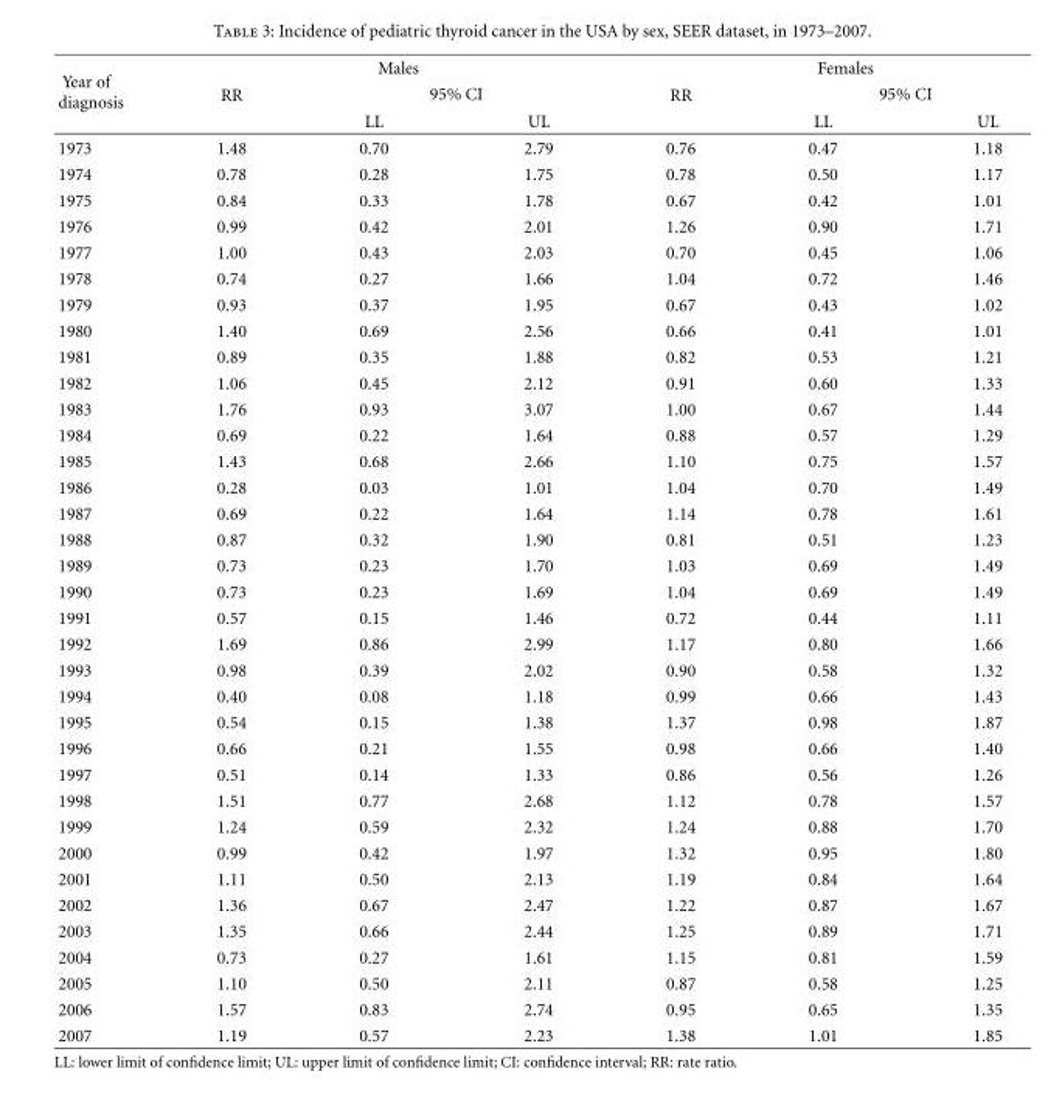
<table><thead><tr><td rowspan="3">Year of diagnosis</td><td colspan="3">Males</td><td colspan="3">Females</td></tr><tr><td rowspan="2">RR</td><td colspan="2">95% CI</td><td rowspan="2">RR</td><td colspan="2">95% CI</td></tr><tr><td>LL</td><td>UL</td><td>LL</td><td>UL</td></tr></thead><tbody><tr><td>1973</td><td>1.48</td><td>0.70</td><td>2.79</td><td>0.76</td><td>0.47</td><td>1.18</td></tr><tr><td>1974</td><td>0.78</td><td>0.28</td><td>1.75</td><td>0.78</td><td>0.50</td><td>1.17</td></tr><tr><td>1975</td><td>0.84</td><td>0.33</td><td>1.78</td><td>0.67</td><td>0.42</td><td>1.01</td></tr><tr><td>1976</td><td>0.99</td><td>0.42</td><td>2.01</td><td>1.26</td><td>0.90</td><td>1.71</td></tr><tr><td>1977</td><td>1.00</td><td>0.43</td><td>2.03</td><td>0.70</td><td>0.45</td><td>1.06</td></tr><tr><td>1978</td><td>0.74</td><td>0.27</td><td>1.66</td><td>1.04</td><td>0.72</td><td>1.46</td></tr><tr><td>1979</td><td>0.93</td><td>0.37</td><td>1.95</td><td>0.67</td><td>0.43</td><td>1.02</td></tr><tr><td>1980</td><td>1.40</td><td>0.69</td><td>2.56</td><td>0.66</td><td>0.41</td><td>1.01</td></tr><tr><td>1981</td><td>0.89</td><td>0.35</td><td>1.88</td><td>0.82</td><td>0.53</td><td>1.21</td></tr><tr><td>1982</td><td>1.06</td><td>0.45</td><td>2.12</td><td>0.91</td><td>0.60</td><td>1.33</td></tr><tr><td>1983</td><td>1.76</td><td>0.93</td><td>3.07</td><td>1.00</td><td>0.67</td><td>1.44</td></tr><tr><td>1984</td><td>0.69</td><td>0.22</td><td>1.64</td><td>0.88</td><td>0.57</td><td>1.29</td></tr><tr><td>1985</td><td>1.43</td><td>0.68</td><td>2.66</td><td>1.10</td><td>0.75</td><td>1.57</td></tr><tr><td>1986</td><td>0.28</td><td>0.03</td><td>1.01</td><td>1.04</td><td>0.70</td><td>1.49</td></tr><tr><td>1987</td><td>0.69</td><td>0.22</td><td>1.64</td><td>1.14</td><td>0.78</td><td>1.61</td></tr><tr><td>1988</td><td>0.87</td><td>0.32</td><td>1.90</td><td>0.81</td><td>0.51</td><td>1.23</td></tr><tr><td>1989</td><td>0.73</td><td>0.23</td><td>1.70</td><td>1.03</td><td>0.69</td><td>1.49</td></tr><tr><td>1990</td><td>0.73</td><td>0.23</td><td>1.69</td><td>1.04</td><td>0.69</td><td>1.49</td></tr><tr><td>1991</td><td>0.57</td><td>0.15</td><td>1.46</td><td>0.72</td><td>0.44</td><td>1.11</td></tr><tr><td>1992</td><td>1.69</td><td>0.86</td><td>2.99</td><td>1.17</td><td>0.80</td><td>1.66</td></tr><tr><td>1993</td><td>0.98</td><td>0.39</td><td>2.02</td><td>0.90</td><td>0.58</td><td>1.32</td></tr><tr><td>1994</td><td>0.40</td><td>0.08</td><td>1.18</td><td>0.99</td><td>0.66</td><td>1.43</td></tr><tr><td>1995</td><td>0.54</td><td>0.15</td><td>1.38</td><td>1.37</td><td>0.98</td><td>1.87</td></tr><tr><td>1996</td><td>0.66</td><td>0.21</td><td>1.55</td><td>0.98</td><td>0.66</td><td>1.40</td></tr><tr><td>1997</td><td>0.51</td><td>0.14</td><td>1.33</td><td>0.86</td><td>0.56</td><td>1.26</td></tr><tr><td>1998</td><td>1.51</td><td>0.77</td><td>2.68</td><td>1.12</td><td>0.78</td><td>1.57</td></tr><tr><td>1999</td><td>1.24</td><td>0.59</td><td>2.32</td><td>1.24</td><td>0.88</td><td>1.70</td></tr><tr><td>2000</td><td>0.99</td><td>0.42</td><td>1.97</td><td>1.32</td><td>0.95</td><td>1.80</td></tr><tr><td>2001</td><td>1.11</td><td>0.50</td><td>2.13</td><td>1.19</td><td>0.84</td><td>1.64</td></tr><tr><td>2002</td><td>1.36</td><td>0.67</td><td>2.47</td><td>1.22</td><td>0.87</td><td>1.67</td></tr><tr><td>2003</td><td>1.35</td><td>0.66</td><td>2.44</td><td>1.25</td><td>0.89</td><td>1.71</td></tr><tr><td>2004</td><td>0.73</td><td>0.27</td><td>1.61</td><td>1.15</td><td>0.81</td><td>1.59</td></tr><tr><td>2005</td><td>1.10</td><td>0.50</td><td>2.11</td><td>0.87</td><td>0.58</td><td>1.25</td></tr><tr><td>2006</td><td>1.57</td><td>0.83</td><td>2.74</td><td>0.95</td><td>0.65</td><td>1.35</td></tr><tr><td>2007</td><td>1.19</td><td>0.57</td><td>2.23</td><td>1.38</td><td>1.01</td><td>1.85</td></tr></tbody></table>